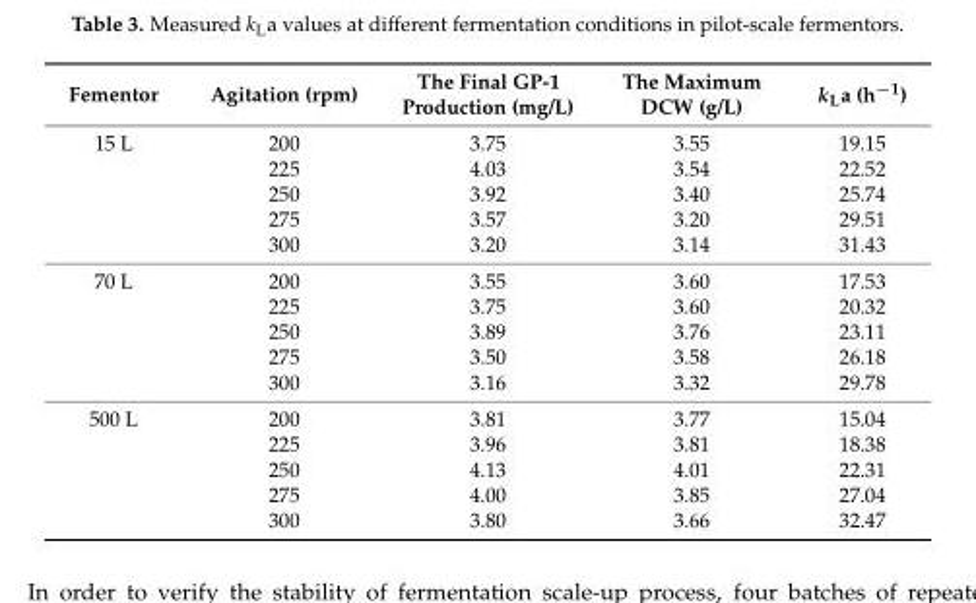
<table><thead><tr><td>Fementor</td><td>Agitation (rpm)</td><td>The Final GP-1 Production (mg/L)</td><td>The Maximum DCW (g/L)</td><td>k<sub>L</sub>a (h<sup>−1</sup>)</td></tr></thead><tbody><tr><td rowspan="5">15 L</td><td>200</td><td>3.75</td><td>3.55</td><td>19.15</td></tr><tr><td>225</td><td>4.03</td><td>3.54</td><td>22.52</td></tr><tr><td>250</td><td>3.92</td><td>3.40</td><td>25.74</td></tr><tr><td>275</td><td>3.57</td><td>3.20</td><td>29.51</td></tr><tr><td>300</td><td>3.20</td><td>3.14</td><td>31.43</td></tr><tr><td rowspan="5">70 L</td><td>200</td><td>3.55</td><td>3.60</td><td>17.53</td></tr><tr><td>225</td><td>3.75</td><td>3.60</td><td>20.32</td></tr><tr><td>250</td><td>3.89</td><td>3.76</td><td>23.11</td></tr><tr><td>275</td><td>3.50</td><td>3.58</td><td>26.18</td></tr><tr><td>300</td><td>3.16</td><td>3.32</td><td>29.78</td></tr><tr><td rowspan="5">500 L</td><td>200</td><td>3.81</td><td>3.77</td><td>15.04</td></tr><tr><td>225</td><td>3.96</td><td>3.81</td><td>18.38</td></tr><tr><td>250</td><td>4.13</td><td>4.01</td><td>22.31</td></tr><tr><td>275</td><td>4.00</td><td>3.85</td><td>27.04</td></tr><tr><td>300</td><td>3.80</td><td>3.66</td><td>32.47</td></tr></tbody></table>